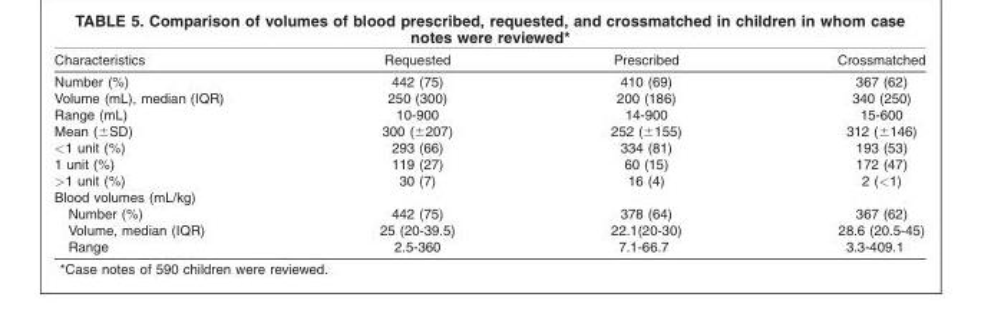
<table><thead><tr><td>Characteristics</td><td>Requested</td><td>Prescribed</td><td>Crossmatched</td></tr></thead><tbody><tr><td>Number (%)</td><td>442 (75)</td><td>410 (69)</td><td>367 (62)</td></tr><tr><td>Volume (mL), median (IQR)</td><td>250 (300)</td><td>200 (186)</td><td>340 (250)</td></tr><tr><td>Range (mL)</td><td>10-900</td><td>14-900</td><td>15-600</td></tr><tr><td>Mean (±SD)</td><td>300 (±207)</td><td>252 (±155)</td><td>312 (±146)</td></tr><tr><td>&lt;1 unit (%)</td><td>293 (66)</td><td>334 (81)</td><td>193 (53)</td></tr><tr><td>1 unit (%)</td><td>119 (27)</td><td>60 (15)</td><td>172 (47)</td></tr><tr><td>&gt;1 unit (%)</td><td>30 (7)</td><td>16 (4)</td><td>2 (&lt;1)</td></tr><tr><td colspan="4">Blood volumes (mL/kg)</td></tr><tr><td>Number (%)</td><td>442 (75)</td><td>378 (64)</td><td>367 (62)</td></tr><tr><td>Volume, median (IQR)</td><td>25 (20-39.5)</td><td>22.1(20-30)</td><td>28.6 (20.5-45)</td></tr><tr><td>Range</td><td>2.5-360</td><td>7.1-66.7</td><td>3.3-409.1</td></tr></tbody></table>